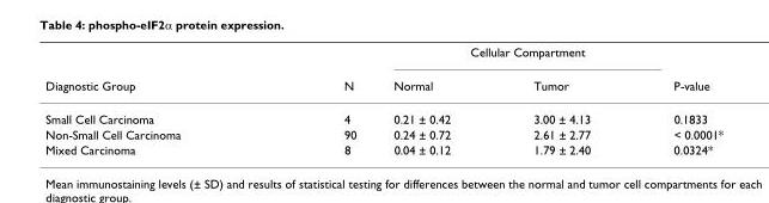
<table><thead><tr><td rowspan="2">Diagnostic Group</td><td rowspan="2">N</td><td colspan="2">Cellular Compartment</td><td rowspan="2">P-value</td></tr><tr><td>Normal</td><td>Tumor</td></tr></thead><tbody><tr><td>Small Cell Carcinoma</td><td>4</td><td>0.21 ± 0.42</td><td>3.00 ± 4.13</td><td>0.1833</td></tr><tr><td>Non-Small Cell Carcinoma</td><td>90</td><td>0.24 ± 0.72</td><td>2.61 ± 2.77</td><td>&lt; 0.0001*</td></tr><tr><td>Mixed Carcinoma</td><td>8</td><td>0.04 ± 0.12</td><td>1.79 ± 2.40</td><td>0.0324*</td></tr></tbody></table>